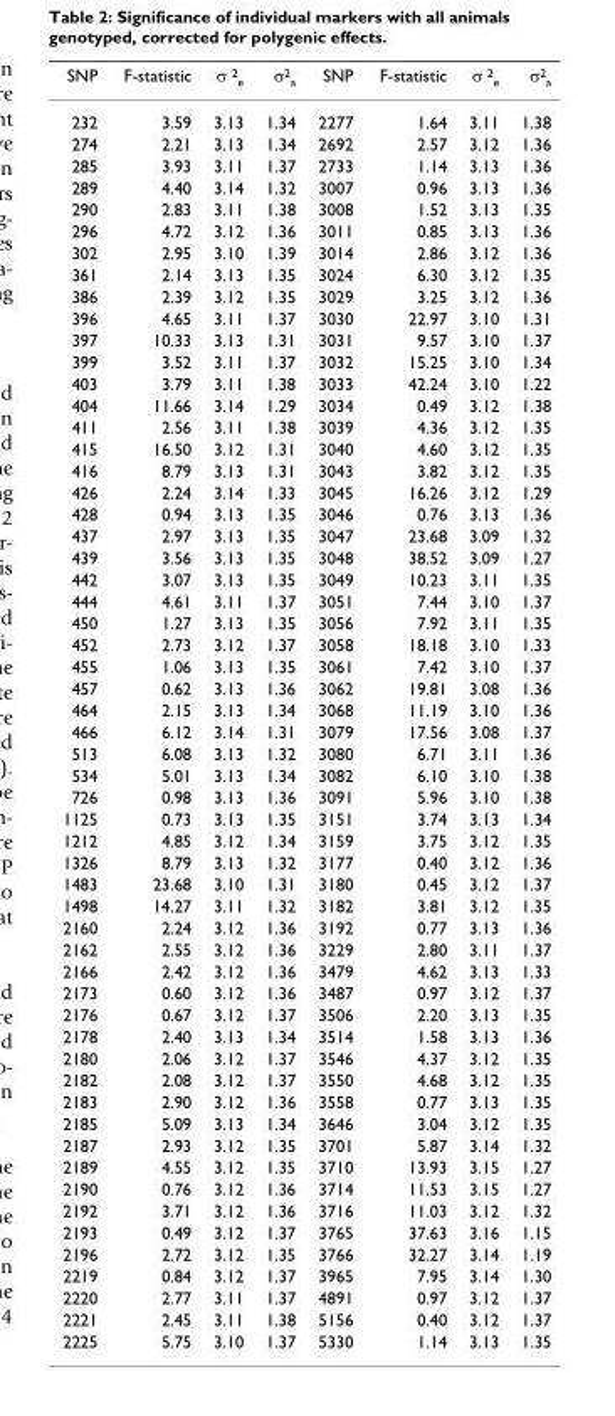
<table><thead><tr><td>SNP</td><td>F-statistic</td><td>σ <sup>2</sup><sub>e</sub></td><td>σ<sup>2</sup><sub>a</sub></td><td>SNP</td><td>F-statistic</td><td>σ <sup>2</sup><sub>e</sub></td><td>σ<sup>2</sup><sub>a</sub></td></tr></thead><tbody><tr><td>232</td><td>3.59</td><td>3.13</td><td>1.34</td><td>2277</td><td>1.64</td><td>3.11</td><td>1.38</td></tr><tr><td>274</td><td>2.21</td><td>3.13</td><td>1.34</td><td>2692</td><td>2.57</td><td>3.12</td><td>1.36</td></tr><tr><td>285</td><td>3.93</td><td>3.11</td><td>1.37</td><td>2733</td><td>1.14</td><td>3.13</td><td>1.36</td></tr><tr><td>289</td><td>4.40</td><td>3.14</td><td>1.32</td><td>3007</td><td>0.96</td><td>3.13</td><td>1.36</td></tr><tr><td>290</td><td>2.83</td><td>3.11</td><td>1.38</td><td>3008</td><td>1.52</td><td>3.13</td><td>1.35</td></tr><tr><td>296</td><td>4.72</td><td>3.12</td><td>1.36</td><td>3011</td><td>0.85</td><td>3.13</td><td>1.36</td></tr><tr><td>302</td><td>2.95</td><td>3.10</td><td>1.39</td><td>3014</td><td>2.86</td><td>3.12</td><td>1.36</td></tr><tr><td>361</td><td>2.14</td><td>3.13</td><td>1.35</td><td>3024</td><td>6.30</td><td>3.12</td><td>1.35</td></tr><tr><td>386</td><td>2.39</td><td>3.12</td><td>1.35</td><td>3029</td><td>3.25</td><td>3.12</td><td>1.36</td></tr><tr><td>396</td><td>4.65</td><td>3.11</td><td>1.37</td><td>3030</td><td>22.97</td><td>3.10</td><td>1.31</td></tr><tr><td>397</td><td>10.33</td><td>3.13</td><td>1.31</td><td>3031</td><td>9.57</td><td>3.10</td><td>1.37</td></tr><tr><td>399</td><td>3.52</td><td>3.11</td><td>1.37</td><td>3032</td><td>15.25</td><td>3.10</td><td>1.34</td></tr><tr><td>403</td><td>3.79</td><td>3.11</td><td>1.38</td><td>3033</td><td>42.24</td><td>3.10</td><td>1.22</td></tr><tr><td>404</td><td>11.66</td><td>3.14</td><td>1.29</td><td>3034</td><td>0.49</td><td>3.12</td><td>1.38</td></tr><tr><td>411</td><td>2.56</td><td>3.11</td><td>1.38</td><td>3039</td><td>4.36</td><td>3.12</td><td>1.35</td></tr><tr><td>415</td><td>16.50</td><td>3.12</td><td>1.31</td><td>3040</td><td>4.60</td><td>3.12</td><td>1.35</td></tr><tr><td>416</td><td>8.79</td><td>3.13</td><td>1.31</td><td>3043</td><td>3.82</td><td>3.12</td><td>1.35</td></tr><tr><td>426</td><td>2.24</td><td>3.14</td><td>1.33</td><td>3045</td><td>16.26</td><td>3.12</td><td>1.29</td></tr><tr><td>428</td><td>0.94</td><td>3.13</td><td>1.35</td><td>3046</td><td>0.76</td><td>3.13</td><td>1.36</td></tr><tr><td>437</td><td>2.97</td><td>3.13</td><td>1.35</td><td>3047</td><td>23.68</td><td>3.09</td><td>1.32</td></tr><tr><td>439</td><td>3.56</td><td>3.13</td><td>1.35</td><td>3048</td><td>38.52</td><td>3.09</td><td>1.27</td></tr><tr><td>442</td><td>3.07</td><td>3.13</td><td>1.35</td><td>3049</td><td>10.23</td><td>3.11</td><td>1.35</td></tr><tr><td>444</td><td>4.61</td><td>3.11</td><td>1.37</td><td>3051</td><td>7.44</td><td>3.10</td><td>1.37</td></tr><tr><td>450</td><td>1.27</td><td>3.13</td><td>1.35</td><td>3056</td><td>7.92</td><td>3.11</td><td>1.35</td></tr><tr><td>452</td><td>2.73</td><td>3.12</td><td>1.37</td><td>3058</td><td>18.18</td><td>3.10</td><td>1.33</td></tr><tr><td>455</td><td>1.06</td><td>3.13</td><td>1.35</td><td>3061</td><td>7.42</td><td>3.10</td><td>1.37</td></tr><tr><td>457</td><td>0.62</td><td>3.13</td><td>1.36</td><td>3062</td><td>19.81</td><td>3.08</td><td>1.36</td></tr><tr><td>464</td><td>2.15</td><td>3.13</td><td>1.34</td><td>3068</td><td>11.19</td><td>3.10</td><td>1.36</td></tr><tr><td>466</td><td>6.12</td><td>3.14</td><td>1.31</td><td>3079</td><td>17.56</td><td>3.08</td><td>1.37</td></tr><tr><td>513</td><td>6.08</td><td>3.13</td><td>1.32</td><td>3080</td><td>6.71</td><td>3.11</td><td>1.36</td></tr><tr><td>534</td><td>5.01</td><td>3.13</td><td>1.34</td><td>3082</td><td>6.10</td><td>3.10</td><td>1.38</td></tr><tr><td>726</td><td>0.98</td><td>3.13</td><td>1.36</td><td>3091</td><td>5.96</td><td>3.10</td><td>1.38</td></tr><tr><td>1125</td><td>0.73</td><td>3.13</td><td>1.35</td><td>3151</td><td>3.74</td><td>3.13</td><td>1.34</td></tr><tr><td>1212</td><td>4.85</td><td>3.12</td><td>1.34</td><td>3159</td><td>3.75</td><td>3.12</td><td>1.35</td></tr><tr><td>1326</td><td>8.79</td><td>3.13</td><td>1.32</td><td>3177</td><td>0.40</td><td>3.12</td><td>1.36</td></tr><tr><td>1483</td><td>23.68</td><td>3.10</td><td>1.31</td><td>3180</td><td>0.45</td><td>3.12</td><td>1.37</td></tr><tr><td>1498</td><td>14.27</td><td>3.11</td><td>1.32</td><td>3182</td><td>3.81</td><td>3.12</td><td>1.35</td></tr><tr><td>2160</td><td>2.24</td><td>3.12</td><td>1.36</td><td>3192</td><td>0.77</td><td>3.13</td><td>1.36</td></tr><tr><td>2162</td><td>2.55</td><td>3.12</td><td>1.36</td><td>3229</td><td>2.80</td><td>3.11</td><td>1.37</td></tr><tr><td>2166</td><td>2.42</td><td>3.12</td><td>1.36</td><td>3479</td><td>4.62</td><td>3.13</td><td>1.33</td></tr><tr><td>2173</td><td>0.60</td><td>3.12</td><td>1.36</td><td>3487</td><td>0.97</td><td>3.12</td><td>1.37</td></tr><tr><td>2176</td><td>0.67</td><td>3.12</td><td>1.37</td><td>3506</td><td>2.20</td><td>3.13</td><td>1.35</td></tr><tr><td>2178</td><td>2.40</td><td>3.13</td><td>1.34</td><td>3514</td><td>1.58</td><td>3.13</td><td>1.36</td></tr><tr><td>2180</td><td>2.06</td><td>3.12</td><td>1.37</td><td>3546</td><td>4.37</td><td>3.12</td><td>1.35</td></tr><tr><td>2182</td><td>2.08</td><td>3.12</td><td>1.37</td><td>3550</td><td>4.68</td><td>3.12</td><td>1.35</td></tr><tr><td>2183</td><td>2.90</td><td>3.12</td><td>1.36</td><td>3558</td><td>0.77</td><td>3.13</td><td>1.35</td></tr><tr><td>2185</td><td>5.09</td><td>3.13</td><td>1.34</td><td>3646</td><td>3.04</td><td>3.12</td><td>1.35</td></tr><tr><td>2187</td><td>2.93</td><td>3.12</td><td>1.35</td><td>3701</td><td>5.87</td><td>3.14</td><td>1.32</td></tr><tr><td>2189</td><td>4.55</td><td>3.12</td><td>1.35</td><td>3710</td><td>13.93</td><td>3.15</td><td>1.27</td></tr><tr><td>2190</td><td>0.76</td><td>3.12</td><td>1.36</td><td>3714</td><td>11.53</td><td>3.15</td><td>1.27</td></tr><tr><td>2192</td><td>3.71</td><td>3.12</td><td>1.36</td><td>3716</td><td>11.03</td><td>3.12</td><td>1.32</td></tr><tr><td>2193</td><td>0.49</td><td>3.12</td><td>1.37</td><td>3765</td><td>37.63</td><td>3.16</td><td>1.15</td></tr><tr><td>2196</td><td>2.72</td><td>3.12</td><td>1.35</td><td>3766</td><td>32.27</td><td>3.14</td><td>1.19</td></tr><tr><td>2219</td><td>0.84</td><td>3.12</td><td>1.37</td><td>3965</td><td>7.95</td><td>3.14</td><td>1.30</td></tr><tr><td>2220</td><td>2.77</td><td>3.11</td><td>1.37</td><td>4891</td><td>0.97</td><td>3.12</td><td>1.37</td></tr><tr><td>2221</td><td>2.45</td><td>3.11</td><td>1.38</td><td>5156</td><td>0.40</td><td>3.12</td><td>1.37</td></tr><tr><td>2225</td><td>5.75</td><td>3.10</td><td>1.37</td><td>5330</td><td>1.14</td><td>3.13</td><td>1.35</td></tr></tbody></table>